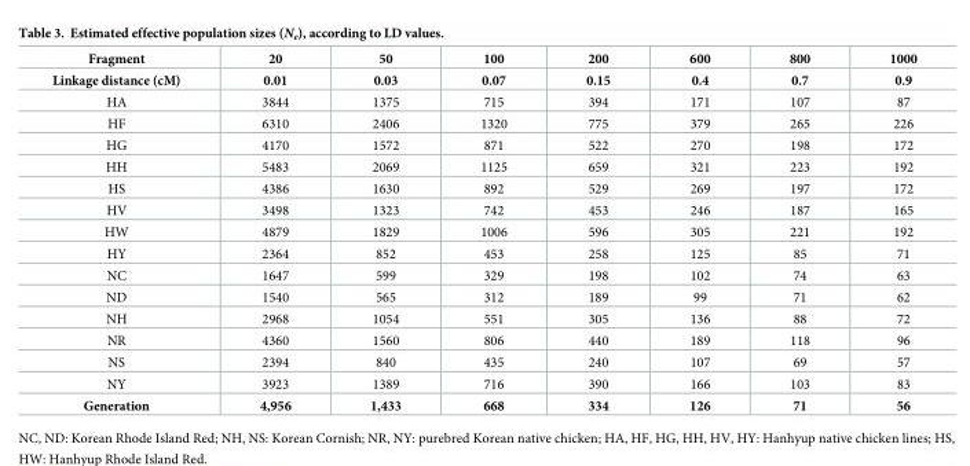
<table><thead><tr><td rowspan="2">Fragment Linkage distance (cM)</td><td rowspan="2">20 0.01</td><td rowspan="2">50 0.03</td><td rowspan="2">100 0.07</td><td rowspan="2">200 0.15</td><td rowspan="2">600 0.4</td><td rowspan="2">800 0.7</td><td rowspan="2">1000 0.9</td></tr><tr></tr></thead><tbody><tr><td>HA</td><td>3844</td><td>1375</td><td>715</td><td>394</td><td>171</td><td>107</td><td>87</td></tr><tr><td>HF</td><td>6310</td><td>2406</td><td>1320</td><td>775</td><td>379</td><td>265</td><td>226</td></tr><tr><td>HG</td><td>4170</td><td>1572</td><td>871</td><td>522</td><td>270</td><td>198</td><td>172</td></tr><tr><td>HH</td><td>5483</td><td>2069</td><td>1125</td><td>659</td><td>321</td><td>223</td><td>192</td></tr><tr><td>HS</td><td>4386</td><td>1630</td><td>892</td><td>529</td><td>269</td><td>197</td><td>172</td></tr><tr><td>HV</td><td>3498</td><td>1323</td><td>742</td><td>453</td><td>246</td><td>187</td><td>165</td></tr><tr><td>HW</td><td>4879</td><td>1829</td><td>1006</td><td>596</td><td>305</td><td>221</td><td>192</td></tr><tr><td>HY</td><td>2364</td><td>852</td><td>453</td><td>258</td><td>125</td><td>85</td><td>71</td></tr><tr><td>NC</td><td>1647</td><td>599</td><td>329</td><td>198</td><td>102</td><td>74</td><td>63</td></tr><tr><td>ND</td><td>1540</td><td>565</td><td>312</td><td>189</td><td>99</td><td>71</td><td>62</td></tr><tr><td>NH</td><td>2968</td><td>1054</td><td>551</td><td>305</td><td>136</td><td>88</td><td>72</td></tr><tr><td>NR</td><td>4360</td><td>1560</td><td>806</td><td>440</td><td>189</td><td>118</td><td>96</td></tr><tr><td>NS</td><td>2394</td><td>840</td><td>435</td><td>240</td><td>107</td><td>69</td><td>57</td></tr><tr><td>NY</td><td>3923</td><td>1389</td><td>716</td><td>390</td><td>166</td><td>103</td><td>83</td></tr><tr><td>Generation</td><td>4,956</td><td>1,433</td><td>668</td><td>334</td><td>126</td><td>71</td><td>56</td></tr></tbody></table>